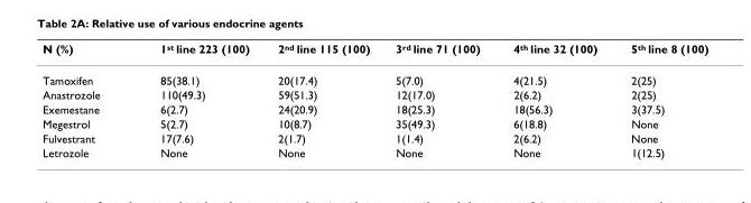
<table><thead><tr><td>N (%)</td><td>1<sup>st</sup> line 223 (100)</td><td>2<sup>nd</sup> line 115 (100)</td><td>3<sup>rd</sup> line 71 (100)</td><td>4<sup>th</sup> line 32 (100)</td><td>5<sup>th</sup> line 8 (100)</td></tr></thead><tbody><tr><td>Tamoxifen</td><td>85(38.1)</td><td>20(17.4)</td><td>5(7.0)</td><td>4(21.5)</td><td>2(25)</td></tr><tr><td>Anastrozole</td><td>110(49.3)</td><td>59(51.3)</td><td>12(17.0)</td><td>2(6.2)</td><td>2(25)</td></tr><tr><td>Exemestane</td><td>6(2.7)</td><td>24(20.9)</td><td>18(25.3)</td><td>18(56.3)</td><td>3(37.5)</td></tr><tr><td>Megestrol</td><td>5(2.7)</td><td>10(8.7)</td><td>35(49.3)</td><td>6(18.8)</td><td>None</td></tr><tr><td>Fulvestrant</td><td>17(7.6)</td><td>2(1.7)</td><td>1(1.4)</td><td>2(6.2)</td><td>None</td></tr><tr><td>Letrozole</td><td>None</td><td>None</td><td>None</td><td>None</td><td>1(12.5)</td></tr></tbody></table>